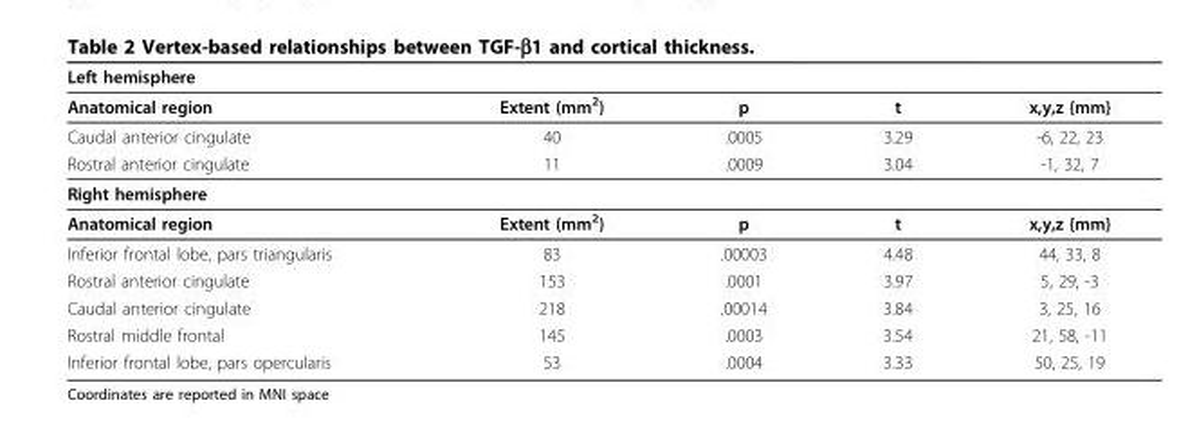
<table><thead><tr><td colspan="5">Left hemisphere</td></tr><tr><td>Anatomical region</td><td>Extent (mm<sup>2</sup>)</td><td>p</td><td>t</td><td>x,y,z {mm}</td></tr></thead><tbody><tr><td>Caudal anterior cingulate</td><td>40</td><td>.0005</td><td>3.29</td><td>-6, 22, 23</td></tr><tr><td>Rostral anterior cingulate</td><td>11</td><td>.0009</td><td>3.04</td><td>-1, 32, 7</td></tr><tr><td colspan="5">Right hemisphere</td></tr><tr><td>Anatomical region</td><td>Extent (mm<sup>2</sup>)</td><td>p</td><td>t</td><td>x,y,z {mm}</td></tr><tr><td>Inferior frontal lobe, pars triangularis</td><td>83</td><td>.00003</td><td>4.48</td><td>44, 33, 8</td></tr><tr><td>Rostral anterior cingulate</td><td>153</td><td>.0001</td><td>3.97</td><td>5, 29, -3</td></tr><tr><td>Caudal anterior cingulate</td><td>218</td><td>.00014</td><td>3.84</td><td>3, 25, 16</td></tr><tr><td>Rostral middle frontal</td><td>145</td><td>.0003</td><td>3.54</td><td>21, 58, -11</td></tr><tr><td>Inferior frontal lobe, pars opercularis</td><td>53</td><td>.0004</td><td>3.33</td><td>50, 25, 19</td></tr></tbody></table>